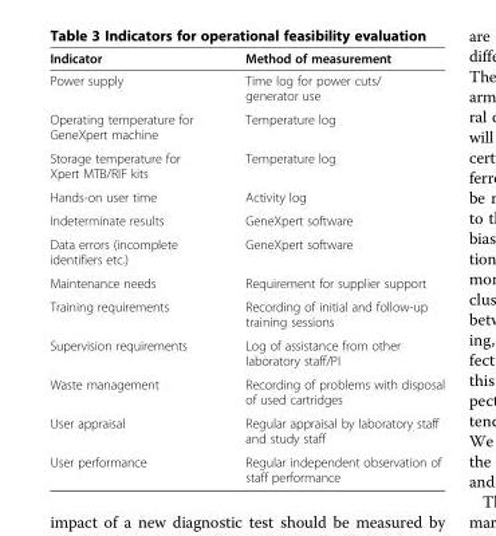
<table><thead><tr><td>Indicator</td><td>Method of measurement</td></tr></thead><tbody><tr><td>Power supply</td><td>Time log for power cuts/ generator use</td></tr><tr><td>Operating temperature for GeneXpert machine</td><td>Temperature log</td></tr><tr><td>Storage temperature for Xpert MTB/RIF kits</td><td>Temperature log</td></tr><tr><td>Hands-on user time</td><td>Activity log</td></tr><tr><td>Indeterminate results</td><td>GeneXpert software</td></tr><tr><td>Data errors (incomplete identifiers etc.)</td><td>GeneXpert software</td></tr><tr><td>Maintenance needs</td><td>Requirement for supplier support</td></tr><tr><td>Training requirements</td><td>Recording of initial and follow-up training sessions</td></tr><tr><td>Supervision requirements</td><td>Log of assistance from other laboratory staff/PI</td></tr><tr><td>Waste management</td><td>Recording of problems with disposal of used cartridges</td></tr><tr><td>User appraisal</td><td>Regular appraisal by laboratory staff and study staff</td></tr><tr><td>User performance</td><td>Regular independent observation of staff performance</td></tr></tbody></table>